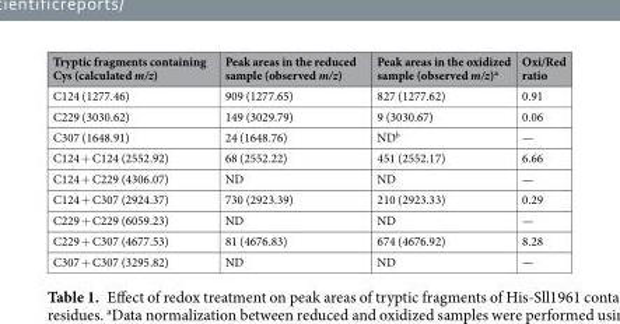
<table><thead><tr><td>Tryptic fragments containing Cys (calculated m/z)</td><td>Peak areas in the reduced sample (observed m/z)</td><td>Peak areas in the oxidized sample (observed m/z)<sup>a</sup></td><td>Oxi/Red ratio</td></tr></thead><tbody><tr><td>C124 (1277.46)</td><td>909 (1277.65)</td><td>827 (1277.62)</td><td>0.91</td></tr><tr><td>C229 (3030.62)</td><td>149 (3029.79)</td><td>9 (3030.67)</td><td>0.06</td></tr><tr><td>C307 (1648.91)</td><td>24 (1648.76)</td><td>ND<sup>b</sup></td><td>—</td></tr><tr><td>C124 + C124 (2552.92)</td><td>68 (2552.22)</td><td>451 (2552.17)</td><td>6.66</td></tr><tr><td>C124 + C229 (4306.07)</td><td>ND</td><td>ND</td><td>—</td></tr><tr><td>C124 + C307 (2924.37)</td><td>730 (2923.39)</td><td>210 (2923.33)</td><td>0.29</td></tr><tr><td>C229 + C229 (6059.23)</td><td>ND</td><td>ND</td><td>—</td></tr><tr><td>C229 + C307 (4677.53)</td><td>81 (4676.83)</td><td>674 (4676.92)</td><td>8.28</td></tr><tr><td>C307 + C307 (3295.82)</td><td>ND</td><td>ND</td><td>—</td></tr></tbody></table>